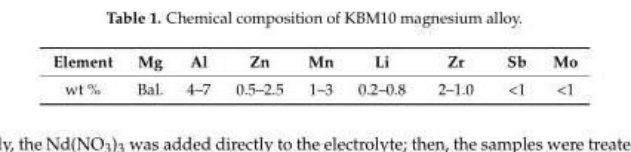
<table><thead><tr><td>Element</td><td>Mg</td><td>Al</td><td>Zn</td><td>Mn</td><td>Li</td><td>Zr</td><td>Sb</td><td>Mo</td></tr></thead><tbody><tr><td>wt %</td><td>Bal.</td><td>4–7</td><td>0.5–2.5</td><td>1–3</td><td>0.2–0.8</td><td>2–1.0</td><td>&lt;1</td><td>&lt;1</td></tr></tbody></table>